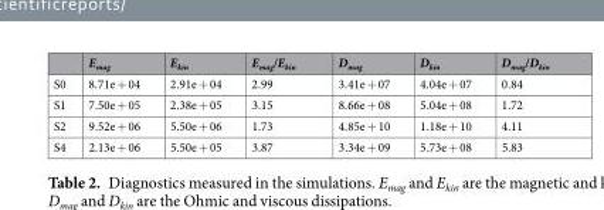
<table><thead><tr><td></td><td>E<sub>mag</sub></td><td>E<sub>kin</sub></td><td>E<sub>mag</sub>/E<sub>kin</sub></td><td>D<sub>mag</sub></td><td>D<sub>kin</sub></td><td>D<sub>mag</sub>/D<sub>kin</sub></td></tr></thead><tbody><tr><td>S0</td><td>8.71e + 04</td><td>2.91e + 04</td><td>2.99</td><td>3.41e + 07</td><td>4.04e + 07</td><td>0.84</td></tr><tr><td>S1</td><td>7.50e + 05</td><td>2.38e + 05</td><td>3.15</td><td>8.66e + 08</td><td>5.04e + 08</td><td>1.72</td></tr><tr><td>S2</td><td>9.52e + 06</td><td>5.50e + 06</td><td>1.73</td><td>4.85e + 10</td><td>1.18e + 10</td><td>4.11</td></tr><tr><td>S4</td><td>2.13e + 06</td><td>5.50e + 05</td><td>3.87</td><td>3.34e + 09</td><td>5.73e + 08</td><td>5.83</td></tr></tbody></table>